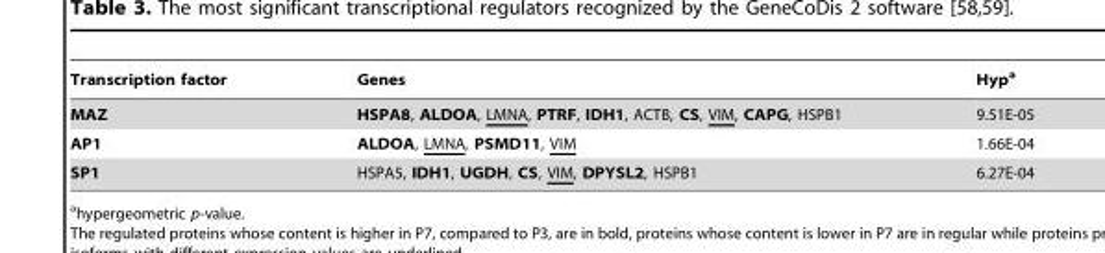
<table><thead><tr><td>Transcription factor</td><td>Genes</td><td>Hyp<sup>a</sup></td></tr></thead><tbody><tr><td>MAZ</td><td>HSPA8, ALDOA, LMNA, PTRF, IDH1, ACTB, CS, VIM, CAPG, HSPB1</td><td>9.51E-05</td></tr><tr><td>AP1</td><td>ALDOA, LMNA, PSMD11, VIM</td><td>1.66E-04</td></tr><tr><td>SP1</td><td>HSPA5, IDH1, UGDH, CS, VIM, DPYSL2, HSPB1</td><td>6.27E-04</td></tr></tbody></table>